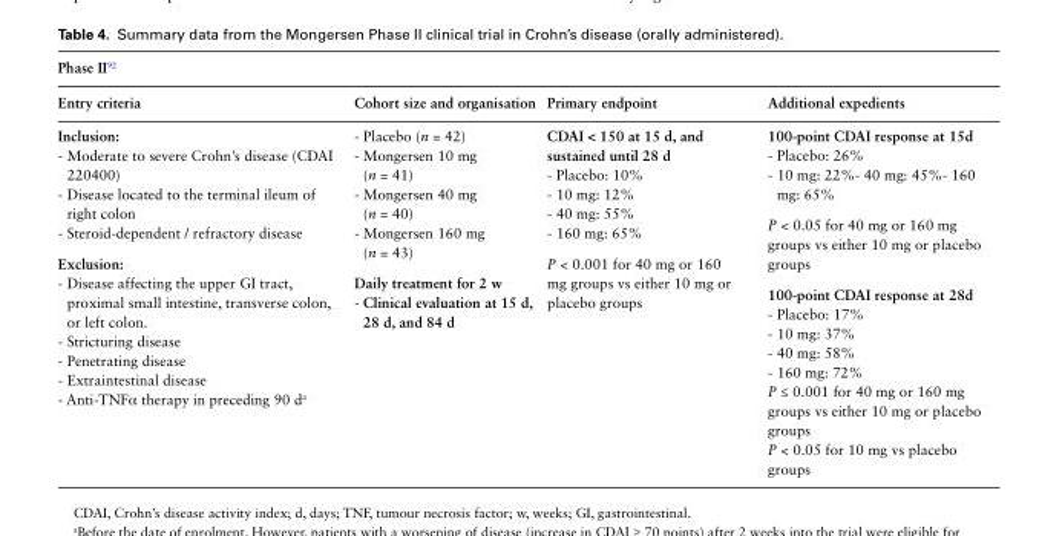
<table><thead><tr><td colspan="4">Phase II<sup>92</sup></td></tr><tr><td>Entry criteria</td><td>Cohort size and organisation</td><td>Primary endpoint</td><td>Additional expedients</td></tr></thead><tbody><tr><td>Inclusion: - Moderate to severe Crohn’s disease (CDAI 220400) - Disease located to the terminal ileum of right colon - Steroid-dependent / refractory disease Exclusion: - Disease affecting the upper GI tract, proximal small intestine, transverse colon, or left colon. - Stricturing disease - Penetrating disease - Extraintestinal disease - Anti-TNFα therapy in preceding 90 d<sup>a</sup></td><td>- Placebo (n = 42) - Mongersen 10 mg (n = 41) - Mongersen 40 mg (n = 40) - Mongersen 160 mg (n = 43) Daily treatment for 2 w - Clinical evaluation at 15 d, 28 d, and 84 d</td><td>CDAI &lt; 150 at 15 d, and sustained until 28 d - Placebo: 10% - 10 mg: 12% - 40 mg: 55% - 160 mg: 65% P &lt; 0.001 for 40 mg or 160 mg groups vs either 10 mg or placebo groups</td><td>100-point CDAI response at 15d - Placebo: 26% - 10 mg: 22%- 40 mg: 45%- 160 mg: 65% P &lt; 0.05 for 40 mg or 160 mg groups vs either 10 mg or placebo groups 100-point CDAI response at 28d - Placebo: 17% - 10 mg: 37% - 40 mg: 58% - 160 mg: 72% P ≤ 0.001 for 40 mg or 160 mg groups vs either 10 mg or placebo groups P &lt; 0.05 for 10 mg vs placebo groups</td></tr></tbody></table>